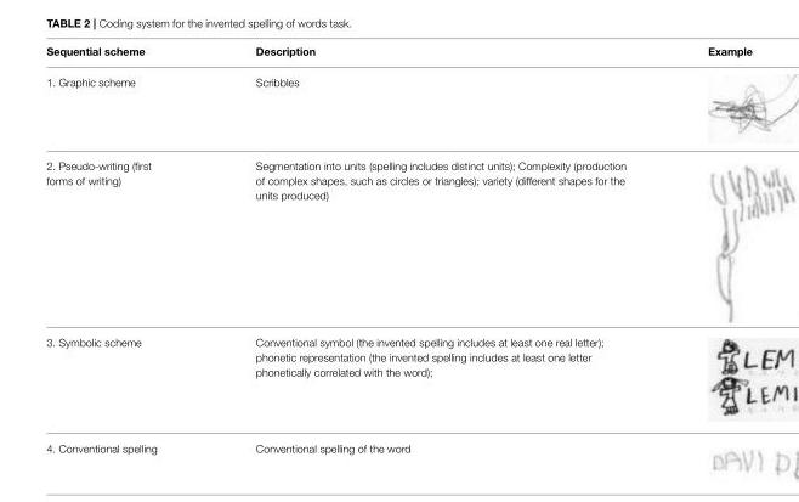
<table><thead><tr><td>Sequential scheme</td><td>Description</td><td>Example</td></tr></thead><tbody><tr><td>1. Graphic scheme</td><td>Scribbles</td><td></td></tr><tr><td>2. Pseudo-writing (first forms of writing)</td><td>Segmentation into units (spelling includes distinct units); Complexity (production of complex shapes, such as circles or triangles); variety (different shapes for the units produced)</td><td></td></tr><tr><td>3. Symbolic scheme</td><td>Conventional symbol (the invented spelling includes at least one real letter); phonetic representation (the invented spelling includes at least one letter phonetically correlated with the word);</td><td></td></tr><tr><td>4. Conventional spelling</td><td>Conventional spelling of the word</td><td></td></tr></tbody></table>